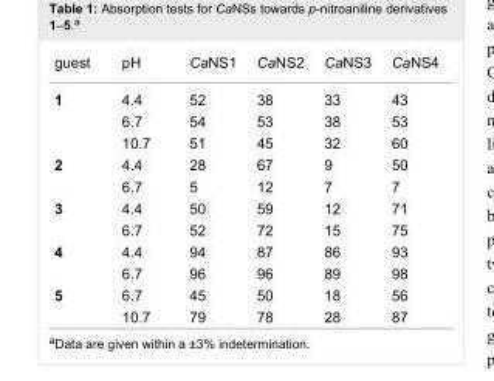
<table><tbody><tr><td>guest</td><td>pH</td><td>CaNS1</td><td>CaNS2</td><td>CaNS3</td><td>CaNS4</td></tr><tr><td rowspan="3">1</td><td>4.4</td><td>52</td><td>38</td><td>33</td><td>43</td></tr><tr><td>6.7</td><td>54</td><td>53</td><td>38</td><td>53</td></tr><tr><td>10.7</td><td>51</td><td>45</td><td>32</td><td>60</td></tr><tr><td rowspan="2">2</td><td>4.4</td><td>28</td><td>67</td><td>9</td><td>50</td></tr><tr><td>6.7</td><td>5</td><td>12</td><td>7</td><td>7</td></tr><tr><td rowspan="2">3</td><td>4.4</td><td>50</td><td>59</td><td>12</td><td>71</td></tr><tr><td>6.7</td><td>52</td><td>72</td><td>15</td><td>75</td></tr><tr><td rowspan="2">4</td><td>4.4</td><td>94</td><td>87</td><td>86</td><td>93</td></tr><tr><td>6.7</td><td>96</td><td>96</td><td>89</td><td>98</td></tr><tr><td rowspan="2">5</td><td>6.7</td><td>45</td><td>50</td><td>18</td><td>56</td></tr><tr><td>10.7</td><td>79</td><td>78</td><td>28</td><td>87</td></tr></tbody></table>